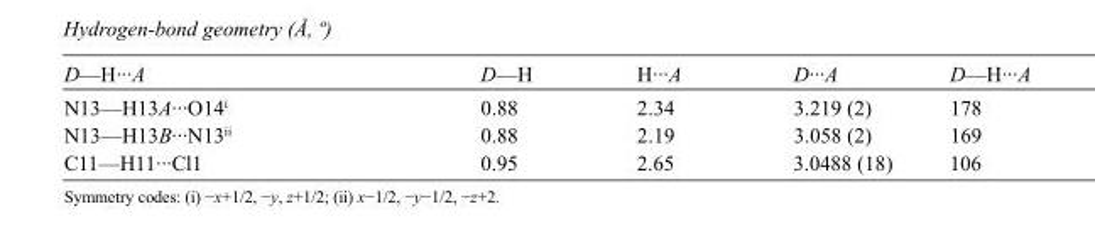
<table><tbody><tr><td>D—H···A</td><td>D—H</td><td>H···A</td><td>D···A</td><td>D—H···A</td></tr><tr><td>N13—H13A···O14<sup>i</sup></td><td>0.88</td><td>2.34</td><td>3.219 (2)</td><td>178</td></tr><tr><td>N13—H13B···N13<sup>ii</sup></td><td>0.88</td><td>2.19</td><td>3.058 (2)</td><td>169</td></tr><tr><td>C11—H11···Cl1</td><td>0.95</td><td>2.65</td><td>3.0488 (18)</td><td>106</td></tr></tbody></table>